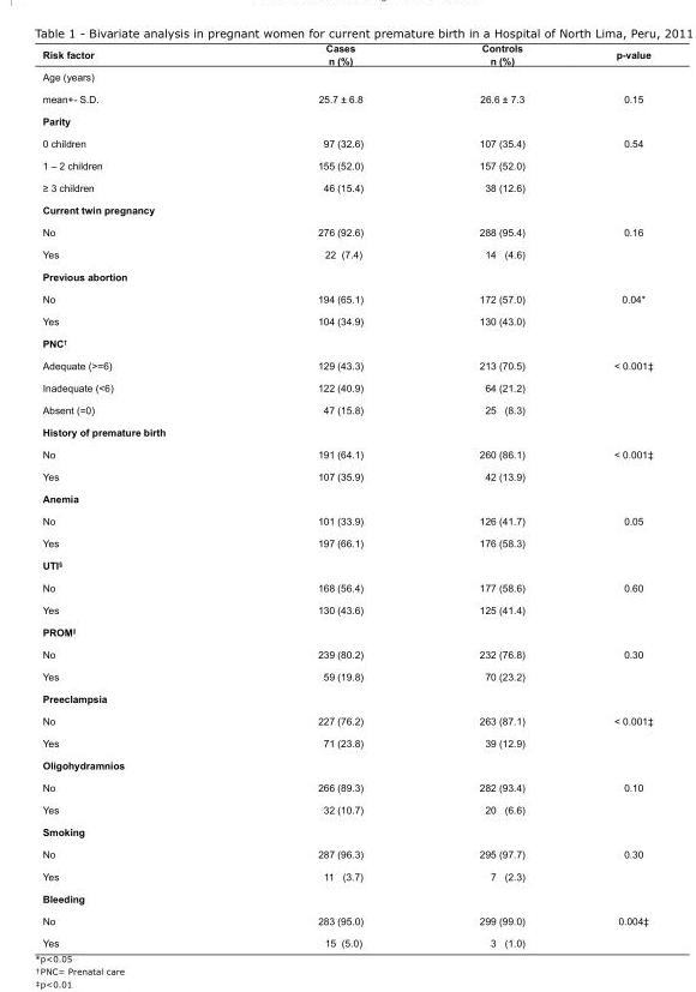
<table><tbody><tr><td>Risk factor</td><td>Cases n (%)</td><td>Controls n (%)</td><td>p-value</td></tr><tr><td colspan="4">Age (years)</td></tr><tr><td>mean+- S.D.</td><td>25.7 ± 6.8</td><td>26.6 ± 7.3</td><td>0.15</td></tr><tr><td colspan="4">Parity</td></tr><tr><td>0 children</td><td>97 (32.6)</td><td>107 (35.4)</td><td>0.54</td></tr><tr><td>1 – 2 children</td><td>155 (52.0)</td><td>157 (52.0)</td><td></td></tr><tr><td>≥ 3 children</td><td>46 (15.4)</td><td>38 (12.6)</td><td></td></tr><tr><td colspan="4">Current twin pregnancy</td></tr><tr><td>No</td><td>276 (92.6)</td><td>288 (95.4)</td><td>0.16</td></tr><tr><td>Yes</td><td>22 (7.4)</td><td>14 (4.6)</td><td></td></tr><tr><td colspan="4">Previous abortion</td></tr><tr><td>No</td><td>194 (65.1)</td><td>172 (57.0)</td><td>0.04*</td></tr><tr><td>Yes</td><td>104 (34.9)</td><td>130 (43.0)</td><td></td></tr><tr><td colspan="4">PNC<sup>†</sup></td></tr><tr><td>Adequate (&gt;=6)</td><td>129 (43.3)</td><td>213 (70.5)</td><td>&lt; 0.001‡</td></tr><tr><td>Inadequate (&lt;6)</td><td>122 (40.9)</td><td>64 (21.2)</td><td></td></tr><tr><td>Absent (=0)</td><td>47 (15.8)</td><td>25 (8.3)</td><td></td></tr><tr><td colspan="4">History of premature birth</td></tr><tr><td>No</td><td>191 (64.1)</td><td>260 (86.1)</td><td>&lt; 0.001‡</td></tr><tr><td>Yes</td><td>107 (35.9)</td><td>42 (13.9)</td><td></td></tr><tr><td colspan="4">Anemia</td></tr><tr><td>No</td><td>101 (33.9)</td><td>126 (41.7)</td><td>0.05</td></tr><tr><td>Yes</td><td>197 (66.1)</td><td>176 (58.3)</td><td></td></tr><tr><td colspan="4">UTI<sup>§</sup></td></tr><tr><td>No</td><td>168 (56.4)</td><td>177 (58.6)</td><td>0.60</td></tr><tr><td>Yes</td><td>130 (43.6)</td><td>125 (41.4)</td><td></td></tr><tr><td colspan="4">PROM<sup>||</sup></td></tr><tr><td>No</td><td>239 (80.2)</td><td>232 (76.8)</td><td>0.30</td></tr><tr><td>Yes</td><td>59 (19.8)</td><td>70 (23.2)</td><td></td></tr><tr><td colspan="4">Preeclampsia</td></tr><tr><td>No</td><td>227 (76.2)</td><td>263 (87.1)</td><td>&lt; 0.001‡</td></tr><tr><td>Yes</td><td>71 (23.8)</td><td>39 (12.9)</td><td></td></tr><tr><td colspan="4">Oligohydramnios</td></tr><tr><td>No</td><td>266 (89.3)</td><td>282 (93.4)</td><td>0.10</td></tr><tr><td>Yes</td><td>32 (10.7)</td><td>20 (6.6)</td><td></td></tr><tr><td colspan="4">Smoking</td></tr><tr><td>No</td><td>287 (96.3)</td><td>295 (97.7)</td><td>0.30</td></tr><tr><td>Yes</td><td>11 (3.7)</td><td>7 (2.3)</td><td></td></tr><tr><td colspan="4">Bleeding</td></tr><tr><td>No</td><td>283 (95.0)</td><td>299 (99.0)</td><td>0.004‡</td></tr><tr><td>Yes</td><td>15 (5.0)</td><td>3 (1.0)</td><td></td></tr></tbody></table>